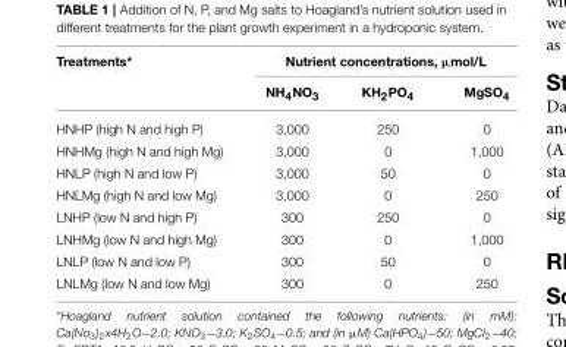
<table><thead><tr><td rowspan="2">Treatments*</td><td colspan="3">Nutrient concentrations, µmol/L</td></tr><tr><td>NH<sub>4</sub>NO<sub>3</sub></td><td>KH<sub>2</sub>PO<sub>4</sub></td><td>MgSO<sub>4</sub></td></tr></thead><tbody><tr><td>HNHP (high N and high P)</td><td>3,000</td><td>250</td><td>0</td></tr><tr><td>HNHMg (high N and high Mg)</td><td>3,000</td><td>0</td><td>1,000</td></tr><tr><td>HNLP (high N and low P)</td><td>3,000</td><td>50</td><td>0</td></tr><tr><td>HNLMg (high N and low Mg)</td><td>3,000</td><td>0</td><td>250</td></tr><tr><td>LNHP (low N and high P)</td><td>300</td><td>250</td><td>0</td></tr><tr><td>LNHMg (low N and high Mg)</td><td>300</td><td>0</td><td>1,000</td></tr><tr><td>LNLP (low N and low P)</td><td>300</td><td>50</td><td>0</td></tr><tr><td>LNLMg (low N and low Mg)</td><td>300</td><td>0</td><td>250</td></tr></tbody></table>